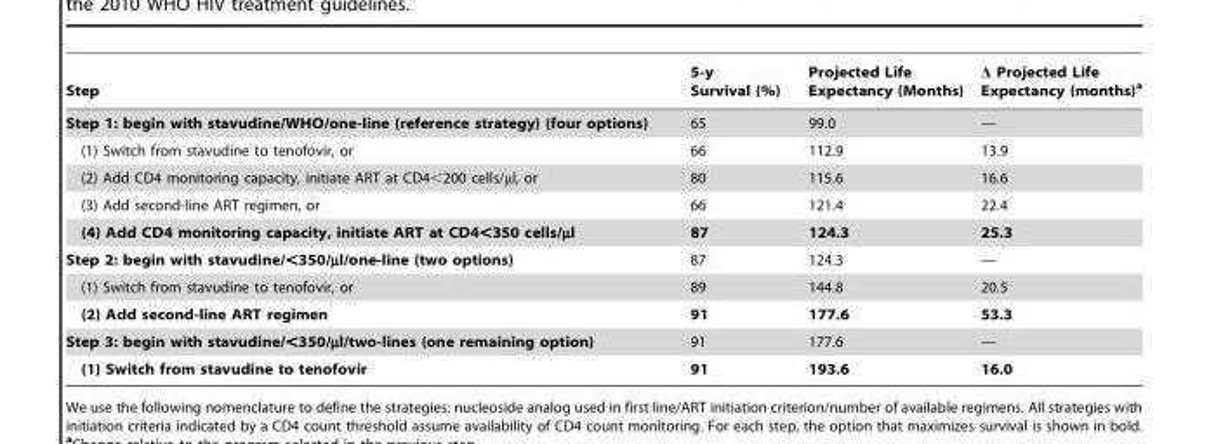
<table><thead><tr><td>Step</td><td>5-y Survival (%)</td><td>Projected Life Expectancy (Months)</td><td>Δ Projected Life Expectancy (months)<sup>a</sup></td></tr></thead><tbody><tr><td>Step 1: begin with stavudine/WHO/one-line (reference strategy) (four options)</td><td>65</td><td>99.0</td><td>—</td></tr><tr><td>(1) Switch from stavudine to tenofovir, or</td><td>66</td><td>112.9</td><td>13.9</td></tr><tr><td>(2) Add CD4 monitoring capacity, initiate ART at CD4&lt;200 cells/µl, or</td><td>80</td><td>115.6</td><td>16.6</td></tr><tr><td>(3) Add second-line ART regimen, or</td><td>66</td><td>121.4</td><td>22.4</td></tr><tr><td>(4) Add CD4 monitoring capacity, initiate ART at CD4&lt;350 cells/µl</td><td>87</td><td>124.3</td><td>25.3</td></tr><tr><td>Step 2: begin with stavudine/&lt;350/µl/one-line (two options)</td><td>87</td><td>124.3</td><td>—</td></tr><tr><td>(1) Switch from stavudine to tenofovir, or</td><td>89</td><td>144.8</td><td>20.5</td></tr><tr><td>(2) Add second-line ART regimen</td><td>91</td><td>177.6</td><td>53.3</td></tr><tr><td>Step 3: begin with stavudine/&lt;350/µl/two-lines (one remaining option)</td><td>91</td><td>177.6</td><td>—</td></tr><tr><td>(1) Switch from stavudine to tenofovir</td><td>91</td><td>193.6</td><td>16.0</td></tr></tbody></table>